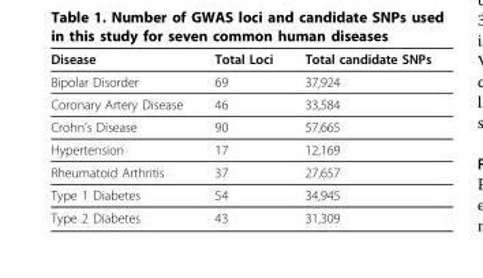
<table><thead><tr><td>Disease</td><td>Total Loci</td><td>Total candidate SNPs</td></tr></thead><tbody><tr><td>Bipolar Disorder</td><td>69</td><td>37,924</td></tr><tr><td>Coronary Artery Disease</td><td>46</td><td>33,584</td></tr><tr><td>Crohn’s Disease</td><td>90</td><td>57,665</td></tr><tr><td>Hypertension</td><td>17</td><td>12,169</td></tr><tr><td>Rheumatoid Arthritis</td><td>37</td><td>27,657</td></tr><tr><td>Type 1 Diabetes</td><td>54</td><td>34,945</td></tr><tr><td>Type 2 Diabetes</td><td>43</td><td>31,309</td></tr></tbody></table>